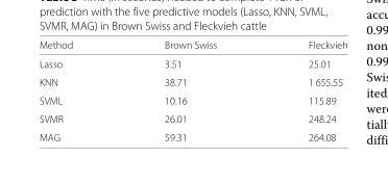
<table><thead><tr><td>Method</td><td>Brown Swiss</td><td>Fleckvieh</td></tr></thead><tbody><tr><td>Lasso</td><td>3.51</td><td>25.01</td></tr><tr><td>KNN</td><td>38.71</td><td>1 655.55</td></tr><tr><td>SVML</td><td>10.16</td><td>115.89</td></tr><tr><td>SVMR</td><td>26.01</td><td>248.24</td></tr><tr><td>MAG</td><td>59.31</td><td>264.08</td></tr></tbody></table>